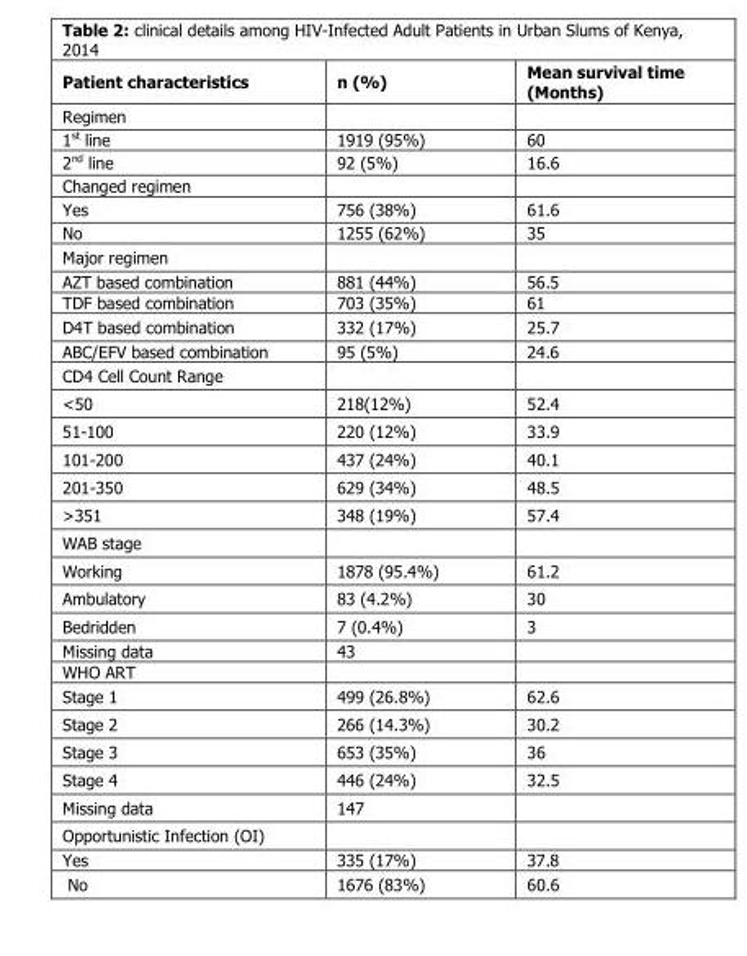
<table><thead><tr><td>Patient characteristics</td><td>n (%)</td><td>Mean survival time (Months)</td></tr></thead><tbody><tr><td colspan="3">Regimen</td></tr><tr><td>1<sup>st</sup> line</td><td>1919 (95%)</td><td>60</td></tr><tr><td>2<sup>nd</sup> line</td><td>92 (5%)</td><td>16.6</td></tr><tr><td colspan="3">Changed regimen</td></tr><tr><td>Yes</td><td>756 (38%)</td><td>61.6</td></tr><tr><td>No</td><td>1255 (62%)</td><td>35</td></tr><tr><td colspan="3">Major regimen</td></tr><tr><td>AZT based combination</td><td>881 (44%)</td><td>56.5</td></tr><tr><td>TDF based combination</td><td>703 (35%)</td><td>61</td></tr><tr><td>D4T based combination</td><td>332 (17%)</td><td>25.7</td></tr><tr><td>ABC/EFV based combination</td><td>95 (5%)</td><td>24.6</td></tr><tr><td colspan="3">CD4 Cell Count Range</td></tr><tr><td>&lt;50</td><td>218(12%)</td><td>52.4</td></tr><tr><td>51-100</td><td>220 (12%)</td><td>33.9</td></tr><tr><td>101-200</td><td>437 (24%)</td><td>40.1</td></tr><tr><td>201-350</td><td>629 (34%)</td><td>48.5</td></tr><tr><td>&gt;351</td><td>348 (19%)</td><td>57.4</td></tr><tr><td colspan="3">WAB stage</td></tr><tr><td>Working</td><td>1878 (95.4%)</td><td>61.2</td></tr><tr><td>Ambulatory</td><td>83 (4.2%)</td><td>30</td></tr><tr><td>Bedridden</td><td>7 (0.4%)</td><td>3</td></tr><tr><td>Missing data</td><td>43</td><td></td></tr><tr><td colspan="3">WHO ART</td></tr><tr><td>Stage 1</td><td>499 (26.8%)</td><td>62.6</td></tr><tr><td>Stage 2</td><td>266 (14.3%)</td><td>30.2</td></tr><tr><td>Stage 3</td><td>653 (35%)</td><td>36</td></tr><tr><td>Stage 4</td><td>446 (24%)</td><td>32.5</td></tr><tr><td>Missing data</td><td>147</td><td></td></tr><tr><td colspan="3">Opportunistic Infection (OI)</td></tr><tr><td>Yes</td><td>335 (17%)</td><td>37.8</td></tr><tr><td>No</td><td>1676 (83%)</td><td>60.6</td></tr></tbody></table>